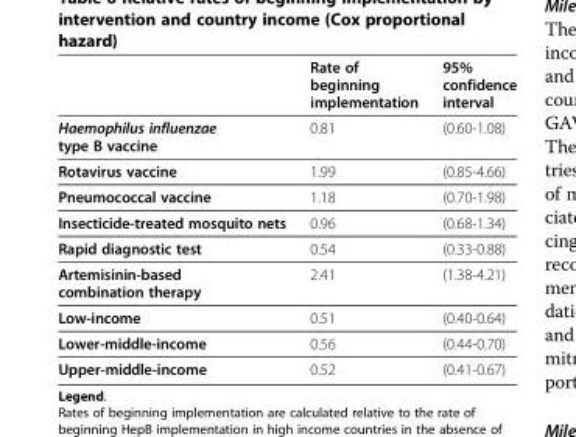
<table><thead><tr><td></td><td>Rate of beginning implementation</td><td>95% confidence interval</td></tr></thead><tbody><tr><td>Haemophilus influenzae type B vaccine</td><td>0.81</td><td>(0.60-1.08)</td></tr><tr><td>Rotavirus vaccine</td><td>1.99</td><td>(0.85-4.66)</td></tr><tr><td>Pneumococcal vaccine</td><td>1.18</td><td>(0.70-1.98)</td></tr><tr><td>Insecticide-treated mosquito nets</td><td>0.96</td><td>(0.68-1.34)</td></tr><tr><td>Rapid diagnostic test</td><td>0.54</td><td>(0.33-0.88)</td></tr><tr><td>Artemisinin-based combination therapy</td><td>2.41</td><td>(1.38-4.21)</td></tr><tr><td>Low-income</td><td>0.51</td><td>(0.40-0.64)</td></tr><tr><td>Lower-middle-income</td><td>0.56</td><td>(0.44-0.70)</td></tr><tr><td>Upper-middle-income</td><td>0.52</td><td>(0.41-0.67)</td></tr></tbody></table>